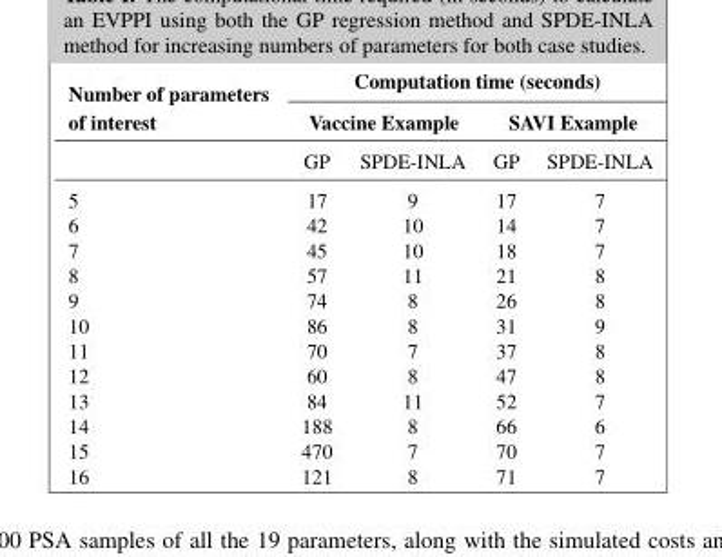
<table><thead><tr><td rowspan="3">Number of parameters of interest</td><td colspan="4">Computation time (seconds)</td></tr><tr><td colspan="2">Vaccine Example</td><td colspan="2">SAVI Example</td></tr><tr><td>GP</td><td>SPDE-INLA</td><td>GP</td><td>SPDE-INLA</td></tr></thead><tbody><tr><td>5</td><td>17</td><td>9</td><td>17</td><td>7</td></tr><tr><td>6</td><td>42</td><td>10</td><td>14</td><td>7</td></tr><tr><td>7</td><td>45</td><td>10</td><td>18</td><td>7</td></tr><tr><td>8</td><td>57</td><td>11</td><td>21</td><td>8</td></tr><tr><td>9</td><td>74</td><td>8</td><td>26</td><td>8</td></tr><tr><td>10</td><td>86</td><td>8</td><td>31</td><td>9</td></tr><tr><td>11</td><td>70</td><td>7</td><td>37</td><td>8</td></tr><tr><td>12</td><td>60</td><td>8</td><td>47</td><td>8</td></tr><tr><td>13</td><td>84</td><td>11</td><td>52</td><td>7</td></tr><tr><td>14</td><td>188</td><td>8</td><td>66</td><td>6</td></tr><tr><td>15</td><td>470</td><td>7</td><td>70</td><td>7</td></tr><tr><td>16</td><td>121</td><td>8</td><td>71</td><td>7</td></tr></tbody></table>